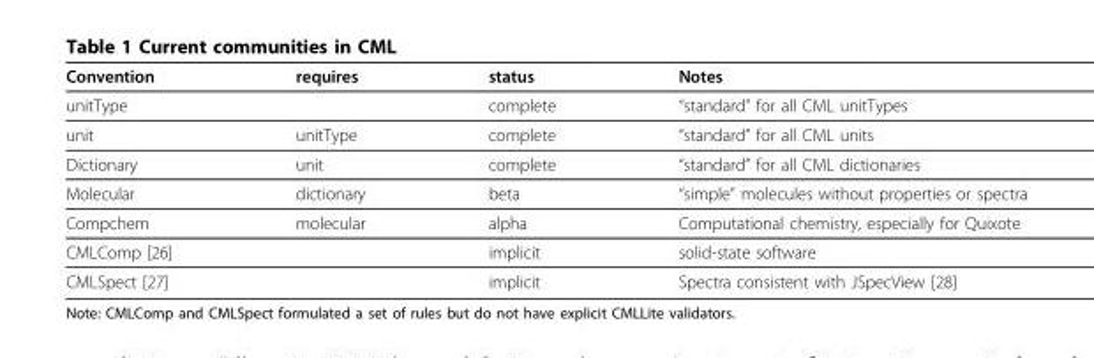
<table><thead><tr><td>Convention</td><td>requires</td><td>status</td><td>Notes</td></tr></thead><tbody><tr><td>unitType</td><td></td><td>complete</td><td>“standard” for all CML unitTypes</td></tr><tr><td>unit</td><td>unitType</td><td>complete</td><td>“standard” for all CML units</td></tr><tr><td>Dictionary</td><td>unit</td><td>complete</td><td>“standard” for all CML dictionaries</td></tr><tr><td>Molecular</td><td>dictionary</td><td>beta</td><td>“simple” molecules without properties or spectra</td></tr><tr><td>Compchem</td><td>molecular</td><td>alpha</td><td>Computational chemistry, especially for Quixote</td></tr><tr><td>CMLComp [26]</td><td></td><td>implicit</td><td>solid-state software</td></tr><tr><td>CMLSpect [27]</td><td></td><td>implicit</td><td>Spectra consistent with JSpecView [28]</td></tr></tbody></table>